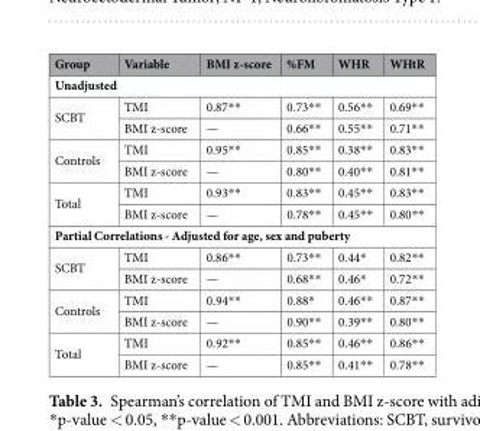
<table><thead><tr><td>Group</td><td>Variable</td><td>BMI z-score</td><td>%FM</td><td>WHR</td><td>WHtR</td></tr></thead><tbody><tr><td colspan="6">Unadjusted</td></tr><tr><td rowspan="2">SCBT</td><td>TMI</td><td>0.87**</td><td>0.73**</td><td>0.56**</td><td>0.69**</td></tr><tr><td>BMI z-score</td><td>—</td><td>0.66**</td><td>0.55**</td><td>0.71**</td></tr><tr><td rowspan="2">Controls</td><td>TMI</td><td>0.95**</td><td>0.85**</td><td>0.38**</td><td>0.83**</td></tr><tr><td>BMI z-score</td><td>—</td><td>0.80**</td><td>0.40**</td><td>0.81**</td></tr><tr><td rowspan="2">Total</td><td>TMI</td><td>0.93**</td><td>0.83**</td><td>0.45**</td><td>0.83**</td></tr><tr><td>BMI z-score</td><td>—</td><td>0.78**</td><td>0.45**</td><td>0.80**</td></tr><tr><td colspan="6">Partial Correlations - Adjusted for age, sex and puberty</td></tr><tr><td rowspan="2">SCBT</td><td>TMI</td><td>0.86**</td><td>0.73**</td><td>0.44*</td><td>0.82**</td></tr><tr><td>BMI z-score</td><td>—</td><td>0.68**</td><td>0.46*</td><td>0.72**</td></tr><tr><td rowspan="2">Controls</td><td>TMI</td><td>0.94**</td><td>0.88*</td><td>0.46**</td><td>0.87**</td></tr><tr><td>BMI z-score</td><td>—</td><td>0.90**</td><td>0.39**</td><td>0.80**</td></tr><tr><td rowspan="2">Total</td><td>TMI</td><td>0.92**</td><td>0.85**</td><td>0.46**</td><td>0.86**</td></tr><tr><td>BMI z-score</td><td>—</td><td>0.85**</td><td>0.41**</td><td>0.78**</td></tr></tbody></table>